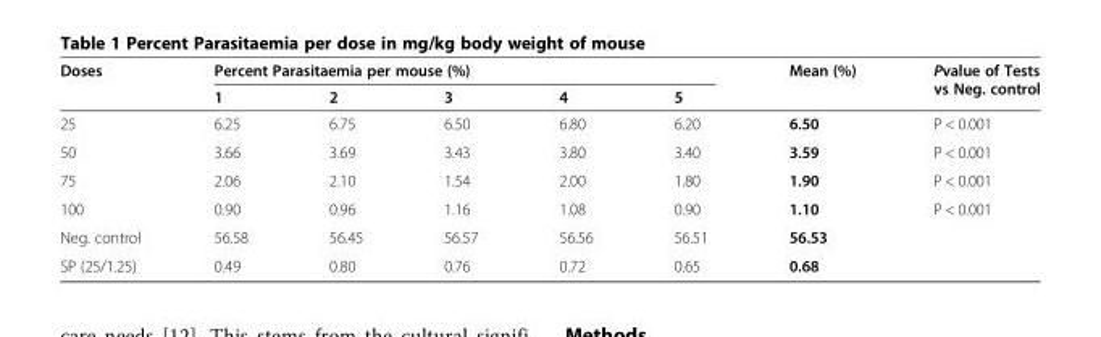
<table><thead><tr><td rowspan="2">Doses</td><td colspan="5">Percent Parasitaemia per mouse (%)</td><td rowspan="2">Mean (%)</td><td rowspan="2">Pvalue of Tests vs Neg. control</td></tr><tr><td>1</td><td>2</td><td>3</td><td>4</td><td>5</td></tr></thead><tbody><tr><td>25</td><td>6.25</td><td>6.75</td><td>6.50</td><td>6.80</td><td>6.20</td><td>6.50</td><td>P &lt; 0.001</td></tr><tr><td>50</td><td>3.66</td><td>3.69</td><td>3.43</td><td>3.80</td><td>3.40</td><td>3.59</td><td>P &lt; 0.001</td></tr><tr><td>75</td><td>2.06</td><td>2.10</td><td>1.54</td><td>2.00</td><td>1.80</td><td>1.90</td><td>P &lt; 0.001</td></tr><tr><td>100</td><td>0.90</td><td>0.96</td><td>1.16</td><td>1.08</td><td>0.90</td><td>1.10</td><td>P &lt; 0.001</td></tr><tr><td>Neg. control</td><td>56.58</td><td>56.45</td><td>56.57</td><td>56.56</td><td>56.51</td><td>56.53</td><td></td></tr><tr><td>SP (25/1.25)</td><td>0.49</td><td>0.80</td><td>0.76</td><td>0.72</td><td>0.65</td><td>0.68</td><td></td></tr></tbody></table>